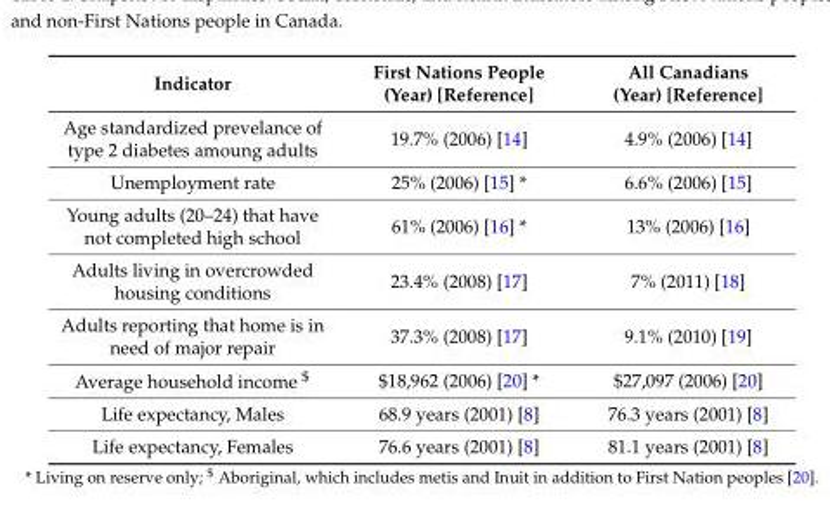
<table><thead><tr><td>Indicator</td><td>First Nations People (Year) [Reference]</td><td>All Canadians (Year) [Reference]</td></tr></thead><tbody><tr><td>Age standardized prevelance of type 2 diabetes amoung adults</td><td>19.7% (2006) [14]</td><td>4.9% (2006) [14]</td></tr><tr><td>Unemployment rate</td><td>25% (2006) [15] *</td><td>6.6% (2006) [15]</td></tr><tr><td>Young adults (20–24) that have not completed high school</td><td>61% (2006) [16] *</td><td>13% (2006) [16]</td></tr><tr><td>Adults living in overcrowded housing conditions</td><td>23.4% (2008) [17]</td><td>7% (2011) [18]</td></tr><tr><td>Adults reporting that home is in need of major repair</td><td>37.3% (2008) [17]</td><td>9.1% (2010) [19]</td></tr><tr><td>Average household income <sup>$</sup></td><td>$18,962 (2006) [20] *</td><td>$27,097 (2006) [20]</td></tr><tr><td>Life expectancy, Males</td><td>68.9 years (2001) [8]</td><td>76.3 years (2001) [8]</td></tr><tr><td>Life expectancy, Females</td><td>76.6 years (2001) [8]</td><td>81.1 years (2001) [8]</td></tr></tbody></table>